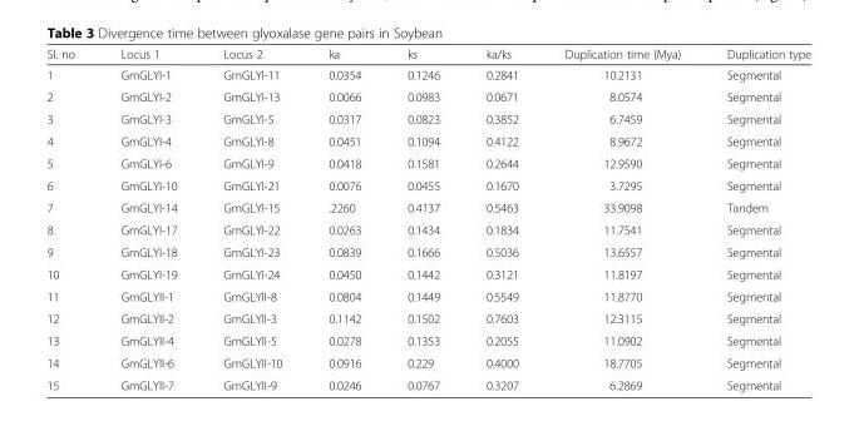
<table><thead><tr><td>Sl. no</td><td>Locus 1</td><td>Locus 2</td><td>ka</td><td>ks</td><td>ka/ks</td><td>Duplication time (Mya)</td><td>Duplication type</td></tr></thead><tbody><tr><td>1</td><td>GmGLYI-1</td><td>GmGLYI-11</td><td>0.0354</td><td>0.1246</td><td>0.2841</td><td>10.2131</td><td>Segmental</td></tr><tr><td>2</td><td>GmGLYI-2</td><td>GmGLYI-13</td><td>0.0066</td><td>0.0983</td><td>0.0671</td><td>8.0574</td><td>Segmental</td></tr><tr><td>3</td><td>GmGLYI-3</td><td>GmGLYI-5</td><td>0.0317</td><td>0.0823</td><td>0.3852</td><td>6.7459</td><td>Segmental</td></tr><tr><td>4</td><td>GmGLYI-4</td><td>GmGLYI-8</td><td>0.0451</td><td>0.1094</td><td>0.4122</td><td>8.9672</td><td>Segmental</td></tr><tr><td>5</td><td>GmGLYI-6</td><td>GmGLYI-9</td><td>0.0418</td><td>0.1581</td><td>0.2644</td><td>12.9590</td><td>Segmental</td></tr><tr><td>6</td><td>GmGLYI-10</td><td>GmGLYI-21</td><td>0.0076</td><td>0.0455</td><td>0.1670</td><td>3.7295</td><td>Segmental</td></tr><tr><td>7</td><td>GmGLYI-14</td><td>GmGLYI-15</td><td>.2260</td><td>0.4137</td><td>0.5463</td><td>33.9098</td><td>Tandem</td></tr><tr><td>8</td><td>GmGLYI-17</td><td>GmGLYI-22</td><td>0.0263</td><td>0.1434</td><td>0.1834</td><td>11.7541</td><td>Segmental</td></tr><tr><td>9</td><td>GmGLYI-18</td><td>GmGLYI-23</td><td>0.0839</td><td>0.1666</td><td>0.5036</td><td>13.6557</td><td>Segmental</td></tr><tr><td>10</td><td>GmGLYI-19</td><td>GmGLYI-24</td><td>0.0450</td><td>0.1442</td><td>0.3121</td><td>11.8197</td><td>Segmental</td></tr><tr><td>11</td><td>GmGLYII-1</td><td>GmGLYII-8</td><td>0.0804</td><td>0.1449</td><td>0.5549</td><td>11.8770</td><td>Segmental</td></tr><tr><td>12</td><td>GmGLYII-2</td><td>GmGLYII-3</td><td>0.1142</td><td>0.1502</td><td>0.7603</td><td>12.3115</td><td>Segmental</td></tr><tr><td>13</td><td>GmGLYII-4</td><td>GmGLYII-5</td><td>0.0278</td><td>0.1353</td><td>0.2055</td><td>11.0902</td><td>Segmental</td></tr><tr><td>14</td><td>GmGLYII-6</td><td>GmGLYII-10</td><td>0.0916</td><td>0.229</td><td>0.4000</td><td>18.7705</td><td>Segmental</td></tr><tr><td>15</td><td>GmGLYII-7</td><td>GmGLYII-9</td><td>0.0246</td><td>0.0767</td><td>0.3207</td><td>6.2869</td><td>Segmental</td></tr></tbody></table>